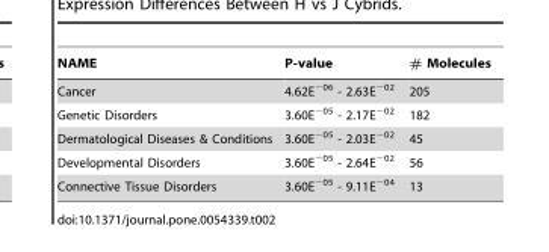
<table><thead><tr><td>NAME</td><td>P-value</td><td># Molecules</td></tr></thead><tbody><tr><td>Cancer</td><td>4.62E<sup>−06</sup> - 2.63E<sup>−02</sup></td><td>205</td></tr><tr><td>Genetic Disorders</td><td>3.60E<sup>−05</sup> - 2.17E<sup>−02</sup></td><td>182</td></tr><tr><td>Dermatological Diseases &amp; Conditions</td><td>3.60E<sup>−05</sup> - 2.03E<sup>−02</sup></td><td>45</td></tr><tr><td>Developmental Disorders</td><td>3.60E<sup>−05</sup> - 2.64E<sup>−02</sup></td><td>56</td></tr><tr><td>Connective Tissue Disorders</td><td>3.60E<sup>−05</sup> - 9.11E<sup>−04</sup></td><td>13</td></tr></tbody></table>